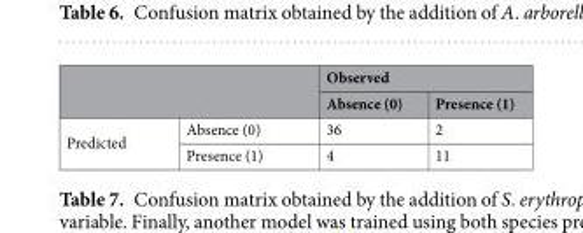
<table><thead><tr><td rowspan="2"></td><td rowspan="2"></td><td colspan="2">Observed</td></tr><tr><td>Absence (0)</td><td>Presence (1)</td></tr></thead><tbody><tr><td rowspan="2">Predicted</td><td>Absence (0)</td><td>36</td><td>2</td></tr><tr><td>Presence (1)</td><td>4</td><td>11</td></tr></tbody></table>